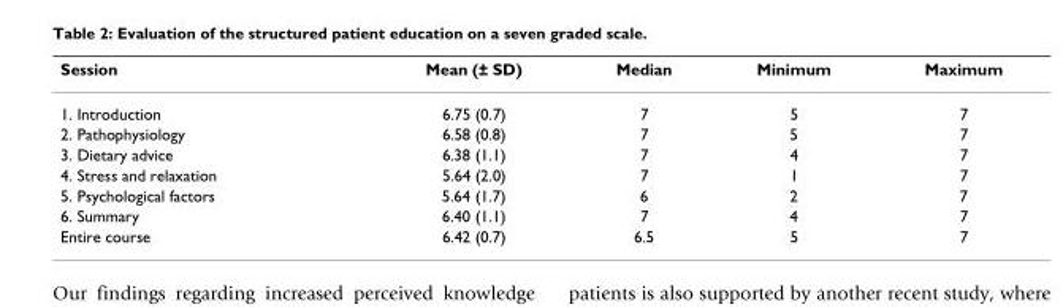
<table><thead><tr><td>Session</td><td>Mean (± SD)</td><td>Median</td><td>Minimum</td><td>Maximum</td></tr></thead><tbody><tr><td>1. Introduction</td><td>6.75 (0.7)</td><td>7</td><td>5</td><td>7</td></tr><tr><td>2. Pathophysiology</td><td>6.58 (0.8)</td><td>7</td><td>5</td><td>7</td></tr><tr><td>3. Dietary advice</td><td>6.38 (1.1)</td><td>7</td><td>4</td><td>7</td></tr><tr><td>4. Stress and relaxation</td><td>5.64 (2.0)</td><td>7</td><td>1</td><td>7</td></tr><tr><td>5. Psychological factors</td><td>5.64 (1.7)</td><td>6</td><td>2</td><td>7</td></tr><tr><td>6. Summary</td><td>6.40 (1.1)</td><td>7</td><td>4</td><td>7</td></tr><tr><td>Entire course</td><td>6.42 (0.7)</td><td>6.5</td><td>5</td><td>7</td></tr></tbody></table>